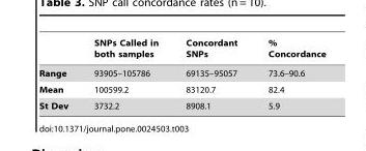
<table><thead><tr><td></td><td>SNPs Called in both samples</td><td>Concordant SNPs</td><td>% Concordance</td></tr></thead><tbody><tr><td>Range</td><td>93905–105786</td><td>69135–95057</td><td>73.6–90.6</td></tr><tr><td>Mean</td><td>100599.2</td><td>83120.7</td><td>82.4</td></tr><tr><td>St Dev</td><td>3732.2</td><td>8908.1</td><td>5.9</td></tr></tbody></table>